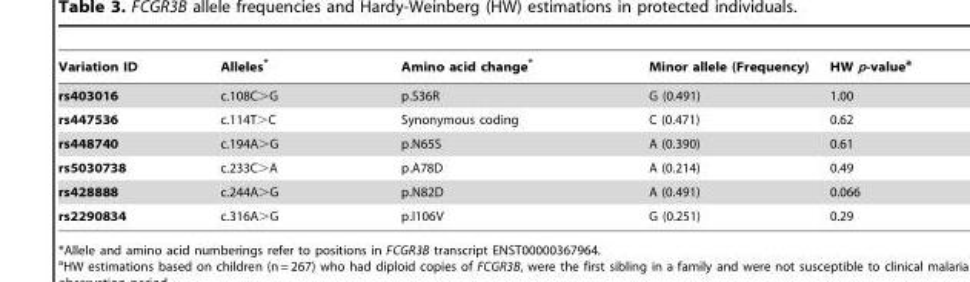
<table><thead><tr><td>Variation ID</td><td>Alleles*</td><td>Amino acid change*</td><td>Minor allele (Frequency)</td><td>HW p-value<sup>a</sup></td></tr></thead><tbody><tr><td>rs403016</td><td>c.108C&gt;G</td><td>p.S36R</td><td>G (0.491)</td><td>1.00</td></tr><tr><td>rs447536</td><td>c.114T&gt;C</td><td>Synonymous coding</td><td>C (0.471)</td><td>0.62</td></tr><tr><td>rs448740</td><td>c.194A&gt;G</td><td>p.N65S</td><td>A (0.390)</td><td>0.61</td></tr><tr><td>rs5030738</td><td>c.233C&gt;A</td><td>p.A78D</td><td>A (0.214)</td><td>0.49</td></tr><tr><td>rs428888</td><td>c.244A&gt;G</td><td>p.N82D</td><td>A (0.491)</td><td>0.066</td></tr><tr><td>rs2290834</td><td>c.316A&gt;G</td><td>p.I106V</td><td>G (0.251)</td><td>0.29</td></tr></tbody></table>